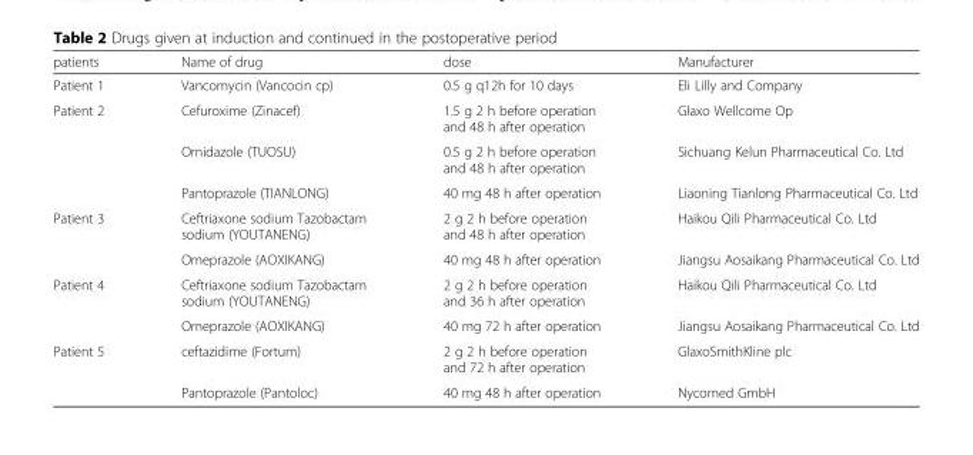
<table><thead><tr><td>patients</td><td>Name of drug</td><td>dose</td><td>Manufacturer</td></tr></thead><tbody><tr><td>Patient 1</td><td>Vancomycin (Vancocin cp)</td><td>0.5 g q12h for 10 days</td><td>Eli Lilly and Company</td></tr><tr><td rowspan="3">Patient 2</td><td>Cefuroxime (Zinacef)</td><td>1.5 g 2 h before operation and 48 h after operation</td><td>Glaxo Wellcome Op</td></tr><tr><td>Ornidazole (TUOSU)</td><td>0.5 g 2 h before operation and 48 h after operation</td><td>Sichuang Kelun Pharmaceutical Co. Ltd</td></tr><tr><td>Pantoprazole (TIANLONG)</td><td>40 mg 48 h after operation</td><td>Liaoning Tianlong Pharmaceutical Co. Ltd</td></tr><tr><td rowspan="2">Patient 3</td><td>Ceftriaxone sodium Tazobactam sodium (YOUTANENG)</td><td>2 g 2 h before operation and 48 h after operation</td><td>Haikou Qili Pharmaceutical Co. Ltd</td></tr><tr><td>Omeprazole (AOXIKANG)</td><td>40 mg 48 h after operation</td><td>Jiangsu Aosaikang Pharmaceutical Co. Ltd</td></tr><tr><td rowspan="2">Patient 4</td><td>Ceftriaxone sodium Tazobactam sodium (YOUTANENG)</td><td>2 g 2 h before operation and 36 h after operation</td><td>Haikou Qili Pharmaceutical Co. Ltd</td></tr><tr><td>Omeprazole (AOXIKANG)</td><td>40 mg 72 h after operation</td><td>Jiangsu Aosaikang Pharmaceutical Co. Ltd</td></tr><tr><td rowspan="2">Patient 5</td><td>ceftazidime (Fortum)</td><td>2 g 2 h before operation and 72 h after operation</td><td>GlaxoSmithKline plc</td></tr><tr><td>Pantoprazole (Pantoloc)</td><td>40 mg 48 h after operation</td><td>Nycomed GmbH</td></tr></tbody></table>